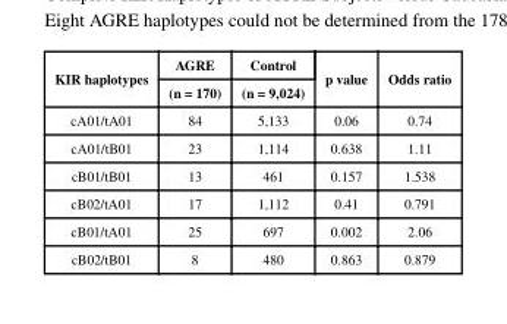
<table><thead><tr><td rowspan="2">KIR haplotypes</td><td rowspan="2">AGRE (n = 170)</td><td rowspan="2">Control (n = 9,024)</td><td rowspan="2">p value</td><td rowspan="2">Odds ratio</td></tr><tr></tr></thead><tbody><tr><td>cA01/tA01</td><td>84</td><td>5,133</td><td>0.06</td><td>0.74</td></tr><tr><td>cA01/tB01</td><td>23</td><td>1,114</td><td>0.638</td><td>1.11</td></tr><tr><td>cB01/tB01</td><td>13</td><td>461</td><td>0.157</td><td>1.538</td></tr><tr><td>cB02/tA01</td><td>17</td><td>1,112</td><td>0.41</td><td>0.791</td></tr><tr><td>cB01/tA01</td><td>25</td><td>697</td><td>0.002</td><td>2.06</td></tr><tr><td>cB02/tB01</td><td>8</td><td>480</td><td>0.863</td><td>0.879</td></tr></tbody></table>